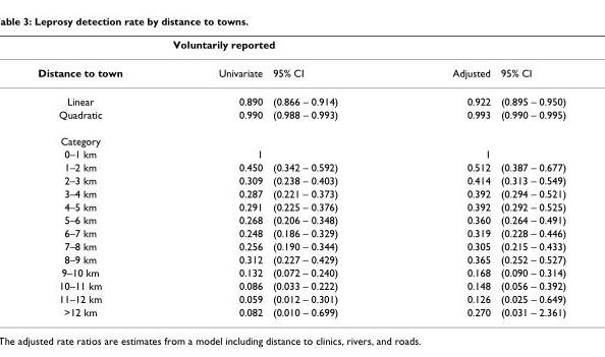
<table><thead><tr><td rowspan="2">Distance to town</td><td colspan="4">Voluntarily reported</td></tr><tr><td>Univariate</td><td>95% CI</td><td>Adjusted</td><td>95% CI</td></tr></thead><tbody><tr><td>Linear</td><td>0.890</td><td>(0.866 – 0.914)</td><td>0.922</td><td>(0.895 – 0.950)</td></tr><tr><td>Quadratic</td><td>0.990</td><td>(0.988 – 0.993)</td><td>0.993</td><td>(0.990 – 0.995)</td></tr><tr><td colspan="5">Category</td></tr><tr><td>0–1 km</td><td>1</td><td></td><td>1</td><td></td></tr><tr><td>1–2 km</td><td>0.450</td><td>(0.342 – 0.592)</td><td>0.512</td><td>(0.387 – 0.677)</td></tr><tr><td>2–3 km</td><td>0.309</td><td>(0.238 – 0.403)</td><td>0.414</td><td>(0.313 – 0.549)</td></tr><tr><td>3–4 km</td><td>0.287</td><td>(0.221 – 0.373)</td><td>0.392</td><td>(0.294 – 0.521)</td></tr><tr><td>4–5 km</td><td>0.291</td><td>(0.225 – 0.376)</td><td>0.392</td><td>(0.292 – 0.525)</td></tr><tr><td>5–6 km</td><td>0.268</td><td>(0.206 – 0.348)</td><td>0.360</td><td>(0.264 – 0.491)</td></tr><tr><td>6–7 km</td><td>0.248</td><td>(0.186 – 0.329)</td><td>0.319</td><td>(0.228 – 0.446)</td></tr><tr><td>7–8 km</td><td>0.256</td><td>(0.190 – 0.344)</td><td>0.305</td><td>(0.215 – 0.433)</td></tr><tr><td>8–9 km</td><td>0.312</td><td>(0.227 – 0.429)</td><td>0.365</td><td>(0.252 – 0.527)</td></tr><tr><td>9–10 km</td><td>0.132</td><td>(0.072 – 0.240)</td><td>0.168</td><td>(0.090 – 0.314)</td></tr><tr><td>10–11 km</td><td>0.086</td><td>(0.033 – 0.222)</td><td>0.148</td><td>(0.056 – 0.392)</td></tr><tr><td>11–12 km</td><td>0.059</td><td>(0.012 – 0.301)</td><td>0.126</td><td>(0.025 – 0.649)</td></tr><tr><td>&gt;12 km</td><td>0.082</td><td>(0.010 – 0.699)</td><td>0.270</td><td>(0.031 – 2.361)</td></tr></tbody></table>